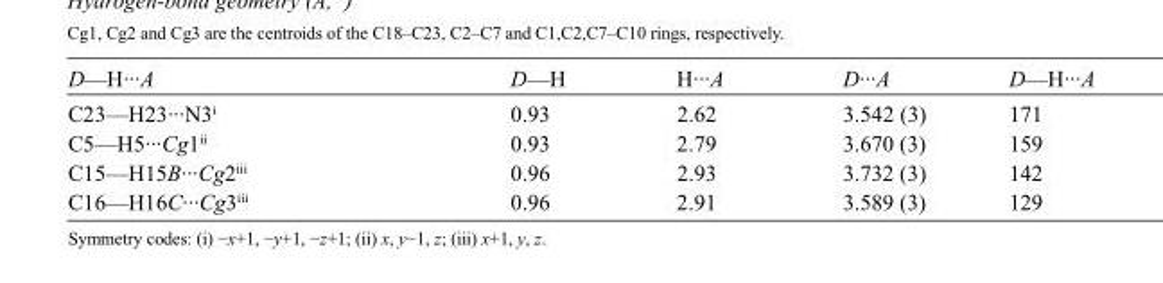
<table><tbody><tr><td>D—H···A</td><td>D—H</td><td>H···A</td><td>D···A</td><td>D—H···A</td></tr><tr><td>C23—H23···N3<sup>i</sup></td><td>0.93</td><td>2.62</td><td>3.542 (3)</td><td>171</td></tr><tr><td>C5—H5···Cg1<sup>ii</sup></td><td>0.93</td><td>2.79</td><td>3.670 (3)</td><td>159</td></tr><tr><td>C15—H15B···Cg2<sup>iii</sup></td><td>0.96</td><td>2.93</td><td>3.732 (3)</td><td>142</td></tr><tr><td>C16—H16C···Cg3<sup>iii</sup></td><td>0.96</td><td>2.91</td><td>3.589 (3)</td><td>129</td></tr></tbody></table>